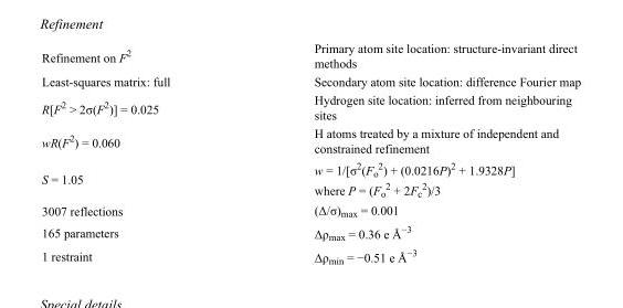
<table><tbody><tr><td>Refinement on F<sup>2</sup></td><td>Primary atom site location: structure-invariant direct methods</td></tr><tr><td>Least-squares matrix: full</td><td>Secondary atom site location: difference Fourier map</td></tr><tr><td>R[F<sup>2</sup> &gt; 2σ(F<sup>2</sup>)] = 0.025</td><td>Hydrogen site location: inferred from neighbouring sites</td></tr><tr><td>wR(F<sup>2</sup>) = 0.060</td><td>H atoms treated by a mixture of independent and constrained refinement</td></tr><tr><td>S = 1.05</td><td>w = 1/[σ<sup>2</sup>(F<sub>o</sub> <sup>2</sup>) + (0.0216P)<sup>2</sup> + 1.9328P] where P = (F<sub>o</sub> <sup>2</sup> + 2F<sub>c</sub> <sup>2</sup>)/3</td></tr><tr><td>3007 reflections</td><td>(Δ/σ)<sub>max</sub> = 0.001</td></tr><tr><td>165 parameters</td><td>Δρ<sub>max</sub> = 0.36 e Å<sup>−3</sup></td></tr><tr><td>1 restraint</td><td>Δρ<sub>min</sub> = −0.51 e Å<sup>−3</sup></td></tr></tbody></table>